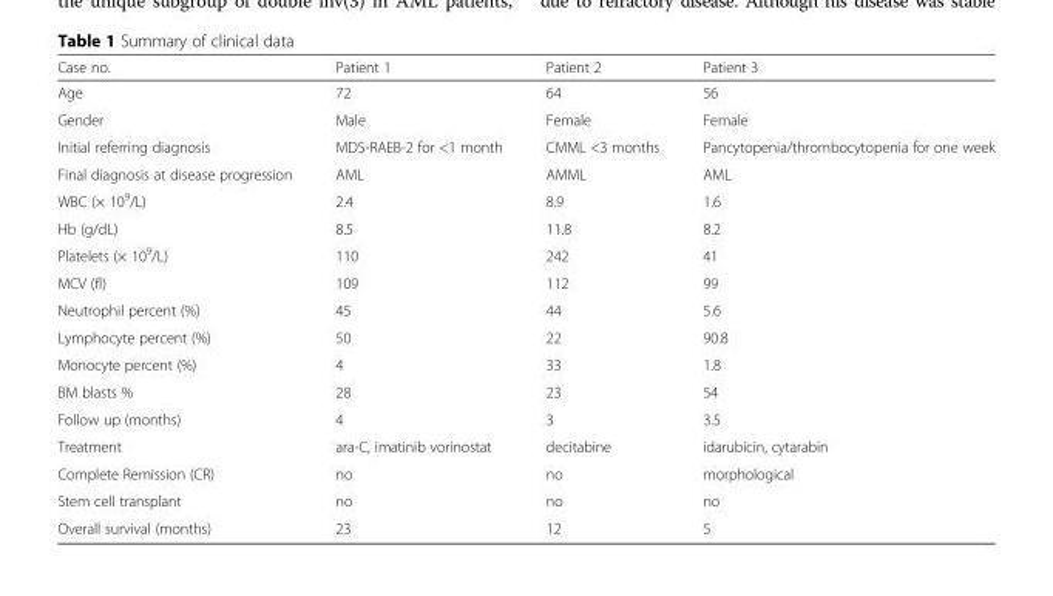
<table><thead><tr><td>Case no.</td><td>Patient 1</td><td>Patient 2</td><td>Patient 3</td></tr></thead><tbody><tr><td>Age</td><td>72</td><td>64</td><td>56</td></tr><tr><td>Gender</td><td>Male</td><td>Female</td><td>Female</td></tr><tr><td>Initial referring diagnosis</td><td>MDS-RAEB-2 for &lt;1 month</td><td>CMML &lt;3 months</td><td>Pancytopenia/thrombocytopenia for one week</td></tr><tr><td>Final diagnosis at disease progression</td><td>AML</td><td>AMML</td><td>AML</td></tr><tr><td>WBC (× 10<sup>9</sup>/L)</td><td>2.4</td><td>8.9</td><td>1.6</td></tr><tr><td>Hb (g/dL)</td><td>8.5</td><td>11.8</td><td>8.2</td></tr><tr><td>Platelets (× 10<sup>9</sup>/L)</td><td>110</td><td>242</td><td>41</td></tr><tr><td>MCV (fl)</td><td>109</td><td>112</td><td>99</td></tr><tr><td>Neutrophil percent (%)</td><td>45</td><td>44</td><td>5.6</td></tr><tr><td>Lymphocyte percent (%)</td><td>50</td><td>22</td><td>90.8</td></tr><tr><td>Monocyte percent (%)</td><td>4</td><td>33</td><td>1.8</td></tr><tr><td>BM blasts %</td><td>28</td><td>23</td><td>54</td></tr><tr><td>Follow up (months)</td><td>4</td><td>3</td><td>3.5</td></tr><tr><td>Treatment</td><td>ara-C, imatinib vorinostat</td><td>decitabine</td><td>idarubicin, cytarabin</td></tr><tr><td>Complete Remission (CR)</td><td>no</td><td>no</td><td>morphological</td></tr><tr><td>Stem cell transplant</td><td>no</td><td>no</td><td>no</td></tr><tr><td>Overall survival (months)</td><td>23</td><td>12</td><td>5</td></tr></tbody></table>